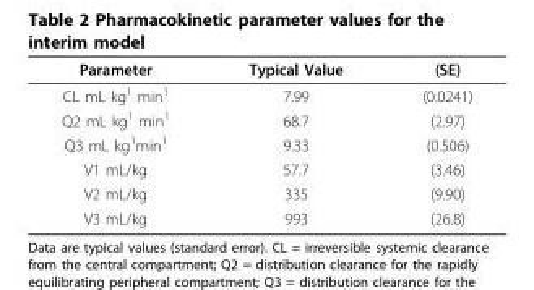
<table><thead><tr><td>Parameter</td><td>Typical Value</td><td>(SE)</td></tr></thead><tbody><tr><td>CL mL kg<sup>1</sup> min<sup>1</sup></td><td>7.99</td><td>(0.0241)</td></tr><tr><td>Q2 mL kg<sup>1</sup> min<sup>1</sup></td><td>68.7</td><td>(2.97)</td></tr><tr><td>Q3 mL kg<sup>1</sup>min<sup>1</sup></td><td>9.33</td><td>(0.506)</td></tr><tr><td>V1 mL/kg</td><td>57.7</td><td>(3.46)</td></tr><tr><td>V2 mL/kg</td><td>335</td><td>(9.90)</td></tr><tr><td>V3 mL/kg</td><td>993</td><td>(26.8)</td></tr></tbody></table>